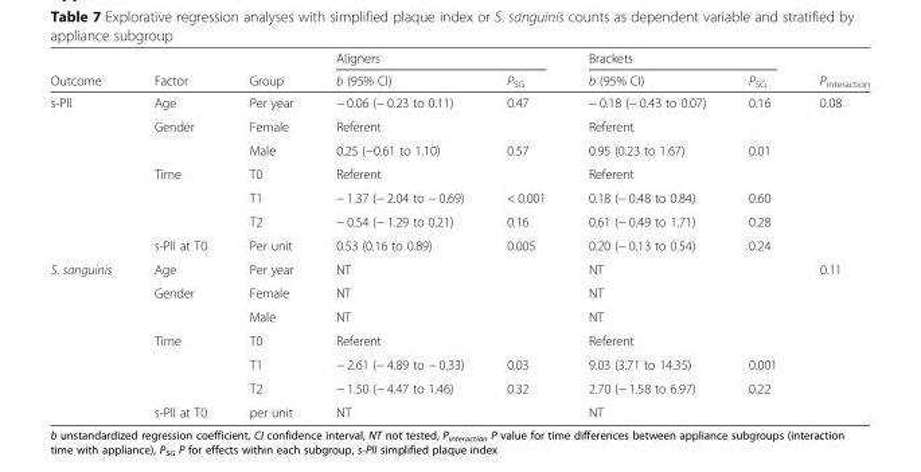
<table><thead><tr><td rowspan="2">Outcome</td><td rowspan="2">Factor</td><td rowspan="2">Group</td><td colspan="2">Aligners</td><td colspan="2">Brackets</td><td rowspan="2">P<sub>interaction</sub></td></tr><tr><td>b (95% CI)</td><td>P<sub>SG</sub></td><td>b (95% CI)</td><td>P<sub>SG</sub></td></tr></thead><tbody><tr><td rowspan="7">s-PlI</td><td>Age</td><td>Per year</td><td>− 0.06 (− 0.23 to 0.11)</td><td>0.47</td><td>− 0.18 (− 0.43 to 0.07)</td><td>0.16</td><td>0.08</td></tr><tr><td rowspan="2">Gender</td><td>Female</td><td>Referent</td><td></td><td>Referent</td><td></td><td></td></tr><tr><td>Male</td><td>0.25 (−0.61 to 1.10)</td><td>0.57</td><td>0.95 (0.23 to 1.67)</td><td>0.01</td><td></td></tr><tr><td rowspan="3">Time</td><td>T0</td><td>Referent</td><td></td><td>Referent</td><td></td><td></td></tr><tr><td>T1</td><td>− 1.37 (− 2.04 to − 0.69)</td><td>&lt; 0.001</td><td>0.18 (− 0.48 to 0.84)</td><td>0.60</td><td></td></tr><tr><td>T2</td><td>− 0.54 (− 1.29 to 0.21)</td><td>0.16</td><td>0.61 (− 0.49 to 1.71)</td><td>0.28</td><td></td></tr><tr><td>s-PlI at T0</td><td>Per unit</td><td>0.53 (0.16 to 0.89)</td><td>0.005</td><td>0.20 (− 0.13 to 0.54)</td><td>0.24</td><td></td></tr><tr><td rowspan="7">S. sanguinis</td><td>Age</td><td>Per year</td><td>NT</td><td></td><td>NT</td><td></td><td>0.11</td></tr><tr><td rowspan="2">Gender</td><td>Female</td><td>NT</td><td></td><td>NT</td><td></td><td></td></tr><tr><td>Male</td><td>NT</td><td></td><td>NT</td><td></td><td></td></tr><tr><td rowspan="3">Time</td><td>T0</td><td>Referent</td><td></td><td>Referent</td><td></td><td></td></tr><tr><td>T1</td><td>− 2.61 (− 4.89 to − 0.33)</td><td>0.03</td><td>9.03 (3.71 to 14.35)</td><td>0.001</td><td></td></tr><tr><td>T2</td><td>− 1.50 (− 4.47 to 1.46)</td><td>0.32</td><td>2.70 (− 1.58 to 6.97)</td><td>0.22</td><td></td></tr><tr><td>s-PlI at T0</td><td>per unit</td><td>NT</td><td></td><td>NT</td><td></td><td></td></tr></tbody></table>